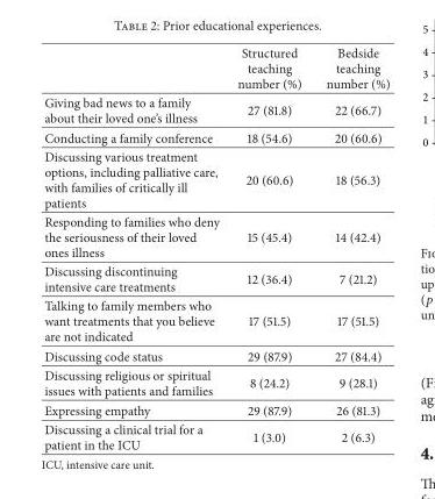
<table><thead><tr><td></td><td>Structured teaching number (%)</td><td>Bedside teaching number (%)</td></tr></thead><tbody><tr><td>Giving bad news to a family about their loved one’s illness</td><td>27 (81.8)</td><td>22 (66.7)</td></tr><tr><td>Conducting a family conference</td><td>18 (54.6)</td><td>20 (60.6)</td></tr><tr><td>Discussing various treatment options, including palliative care, with families of critically ill patients</td><td>20 (60.6)</td><td>18 (56.3)</td></tr><tr><td>Responding to families who deny the seriousness of their loved ones illness</td><td>15 (45.4)</td><td>14 (42.4)</td></tr><tr><td>Discussing discontinuing intensive care treatments</td><td>12 (36.4)</td><td>7 (21.2)</td></tr><tr><td>Talking to family members who want treatments that you believe are not indicated</td><td>17 (51.5)</td><td>17 (51.5)</td></tr><tr><td>Discussing code status</td><td>29 (87.9)</td><td>27 (84.4)</td></tr><tr><td>Discussing religious or spiritual issues with patients and families</td><td>8 (24.2)</td><td>9 (28.1)</td></tr><tr><td>Expressing empathy</td><td>29 (87.9)</td><td>26 (81.3)</td></tr><tr><td>Discussing a clinical trial for a patient in the ICU</td><td>1 (3.0)</td><td>2 (6.3)</td></tr></tbody></table>